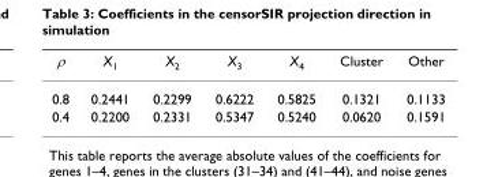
<table><thead><tr><td>ρ</td><td>X<sub>1</sub></td><td>X<sub>2</sub></td><td>X<sub>3</sub></td><td>X<sub>4</sub></td><td>Cluster</td><td>Other</td></tr></thead><tbody><tr><td>0.8</td><td>0.2441</td><td>0.2299</td><td>0.6222</td><td>0.5825</td><td>0.1321</td><td>0.1133</td></tr><tr><td>0.4</td><td>0.2200</td><td>0.2331</td><td>0.5347</td><td>0.5240</td><td>0.0620</td><td>0.1591</td></tr></tbody></table>